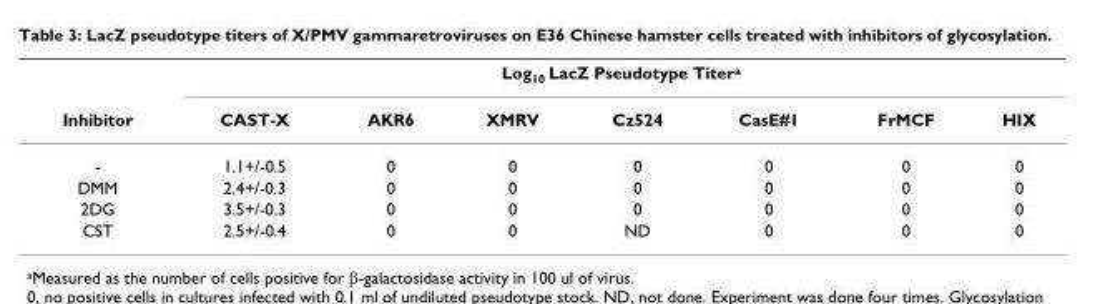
<table><thead><tr><td rowspan="2">Inhibitor</td><td colspan="7">Log<sub>10</sub> LacZ Pseudotype Titer<sup>a</sup></td></tr><tr><td>CAST-X</td><td>AKR6</td><td>XMRV</td><td>Cz524</td><td>CasE#1</td><td>FrMCF</td><td>HIX</td></tr></thead><tbody><tr><td>-</td><td>1.1+/-0.5</td><td>0</td><td>0</td><td>0</td><td>0</td><td>0</td><td>0</td></tr><tr><td>DMM</td><td>2.4+/-0.3</td><td>0</td><td>0</td><td>0</td><td>0</td><td>0</td><td>0</td></tr><tr><td>2DG</td><td>3.5+/-0.3</td><td>0</td><td>0</td><td>0</td><td>0</td><td>0</td><td>0</td></tr><tr><td>CST</td><td>2.5+/-0.4</td><td>0</td><td>0</td><td>ND</td><td>0</td><td>0</td><td>0</td></tr></tbody></table>